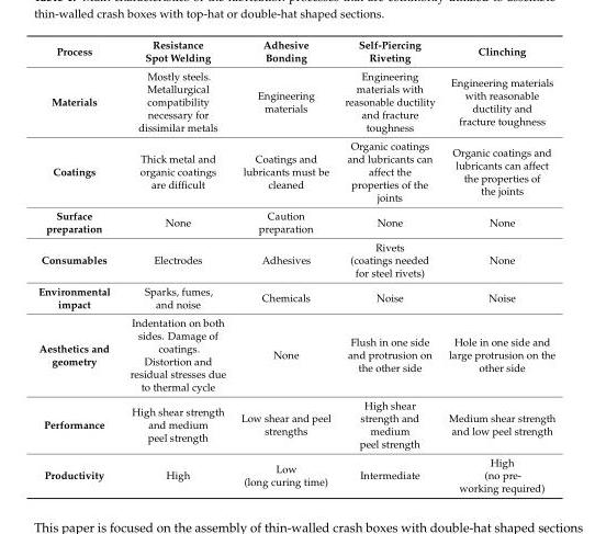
<table><thead><tr><td>Process</td><td>Resistance Spot Welding</td><td>Adhesive Bonding</td><td>Self-Piercing Riveting</td><td>Clinching</td></tr></thead><tbody><tr><td>Materials</td><td>Mostly steels. Metallurgical compatibility necessary for dissimilar metals</td><td>Engineering materials</td><td>Engineering materials with reasonable ductility and fracture toughness</td><td>Engineering materials with reasonable ductility and fracture toughness</td></tr><tr><td>Coatings</td><td>Thick metal and organic coatings are difficult</td><td>Coatings and lubricants must be cleaned</td><td>Organic coatings and lubricants can affect the properties of the joints</td><td>Organic coatings and lubricants can affect the properties of the joints</td></tr><tr><td>Surface preparation</td><td>None</td><td>Caution preparation</td><td>None</td><td>None</td></tr><tr><td>Consumables</td><td>Electrodes</td><td>Adhesives</td><td>Rivets (coatings needed for steel rivets)</td><td>None</td></tr><tr><td>Environmental impact</td><td>Sparks, fumes, and noise</td><td>Chemicals</td><td>Noise</td><td>Noise</td></tr><tr><td>Aesthetics and geometry</td><td>Indentation on both sides. Damage of coatings. Distortion and residual stresses due to thermal cycle</td><td>None</td><td>Flush in one side and protrusion on the other side</td><td>Hole in one side and large protrusion on the other side</td></tr><tr><td>Performance</td><td>High shear strength and medium peel strength</td><td>Low shear and peel strengths</td><td>High shear strength and medium peel strength</td><td>Medium shear strength and low peel strength</td></tr><tr><td>Productivity</td><td>High</td><td>Low (long curing time)</td><td>Intermediate</td><td>High (no pre- working required)</td></tr></tbody></table>